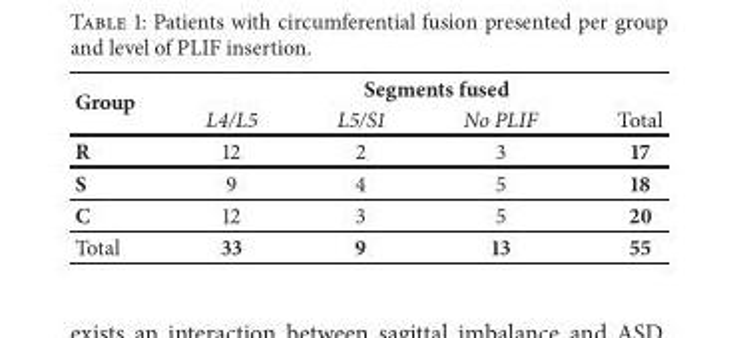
<table><thead><tr><td rowspan="2">Group</td><td colspan="4">Segments fused</td></tr><tr><td>L4/L5</td><td>L5/S1</td><td>No PLIF</td><td>Total</td></tr></thead><tbody><tr><td>R</td><td>12</td><td>2</td><td>3</td><td>17</td></tr><tr><td>S</td><td>9</td><td>4</td><td>5</td><td>18</td></tr><tr><td>C</td><td>12</td><td>3</td><td>5</td><td>20</td></tr><tr><td>Total</td><td>33</td><td>9</td><td>13</td><td>55</td></tr></tbody></table>